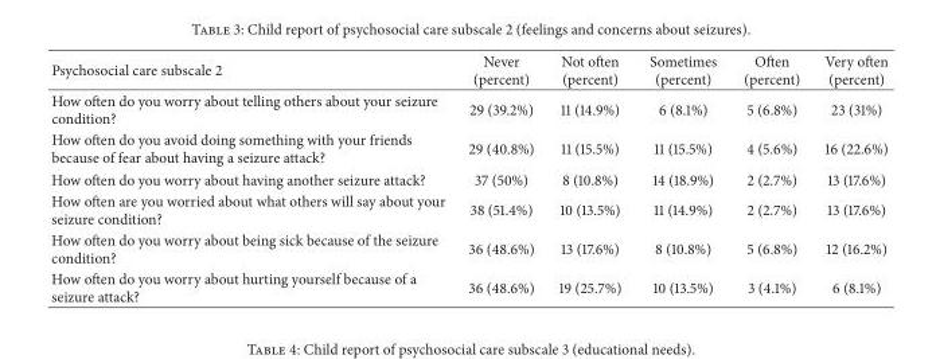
<table><thead><tr><td>Psychosocial care subscale 2</td><td>Never (percent)</td><td>Not often (percent)</td><td>Sometimes (percent)</td><td>Often (percent)</td><td>Very often (percent)</td></tr></thead><tbody><tr><td>How often do you worry about telling others about your seizure condition?</td><td>29 (39.2%)</td><td>11 (14.9%)</td><td>6 (8.1%)</td><td>5 (6.8%)</td><td>23 (31%)</td></tr><tr><td>How often do you avoid doing something with your friends because of fear about having a seizure attack?</td><td>29 (40.8%)</td><td>11 (15.5%)</td><td>11 (15.5%)</td><td>4 (5.6%)</td><td>16 (22.6%)</td></tr><tr><td>How often do you worry about having another seizure attack?</td><td>37 (50%)</td><td>8 (10.8%)</td><td>14 (18.9%)</td><td>2 (2.7%)</td><td>13 (17.6%)</td></tr><tr><td>How often are you worried about what others will say about your seizure condition?</td><td>38 (51.4%)</td><td>10 (13.5%)</td><td>11 (14.9%)</td><td>2 (2.7%)</td><td>13 (17.6%)</td></tr><tr><td>How often do you worry about being sick because of the seizure condition?</td><td>36 (48.6%)</td><td>13 (17.6%)</td><td>8 (10.8%)</td><td>5 (6.8%)</td><td>12 (16.2%)</td></tr><tr><td>How often do you worry about hurting yourself because of a seizure attack?</td><td>36 (48.6%)</td><td>19 (25.7%)</td><td>10 (13.5%)</td><td>3 (4.1%)</td><td>6 (8.1%)</td></tr></tbody></table>